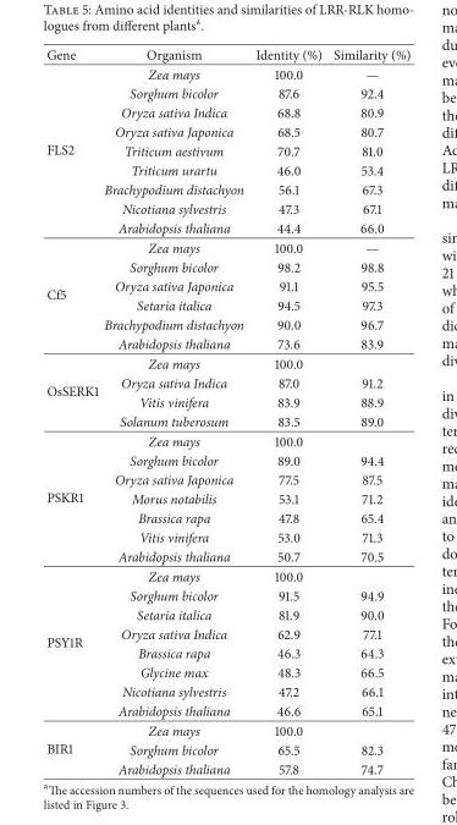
<table><thead><tr><td>Gene</td><td>Organism</td><td>Identity (%)</td><td>Similarity (%)</td></tr></thead><tbody><tr><td rowspan="9">FLS2</td><td>Zea mays</td><td>100.0</td><td>—</td></tr><tr><td>Sorghum bicolor</td><td>87.6</td><td>92.4</td></tr><tr><td>Oryza sativa Indica</td><td>68.8</td><td>80.9</td></tr><tr><td>Oryza sativa Japonica</td><td>68.5</td><td>80.7</td></tr><tr><td>Triticum aestivum</td><td>70.7</td><td>81.0</td></tr><tr><td>Triticum urartu</td><td>46.0</td><td>53.4</td></tr><tr><td>Brachypodium distachyon</td><td>56.1</td><td>67.3</td></tr><tr><td>Nicotiana sylvestris</td><td>47.3</td><td>67.1</td></tr><tr><td>Arabidopsis thaliana</td><td>44.4</td><td>66.0</td></tr><tr><td rowspan="6">Cf5</td><td>Zea mays</td><td>100.0</td><td>—</td></tr><tr><td>Sorghum bicolor</td><td>98.2</td><td>98.8</td></tr><tr><td>Oryza sativa Japonica</td><td>91.1</td><td>95.5</td></tr><tr><td>Setaria italica</td><td>94.5</td><td>97.3</td></tr><tr><td>Brachypodium distachyon</td><td>90.0</td><td>96.7</td></tr><tr><td>Arabidopsis thaliana</td><td>73.6</td><td>83.9</td></tr><tr><td rowspan="4">OsSERK1</td><td>Zea mays</td><td>100.0</td><td></td></tr><tr><td>Oryza sativa Indica</td><td>87.0</td><td>91.2</td></tr><tr><td>Vitis vinifera</td><td>83.9</td><td>88.9</td></tr><tr><td>Solanum tuberosum</td><td>83.5</td><td>89.0</td></tr><tr><td rowspan="7">PSKR1</td><td>Zea mays</td><td>100.0</td><td></td></tr><tr><td>Sorghum bicolor</td><td>89.0</td><td>94.4</td></tr><tr><td>Oryza sativa Japonica</td><td>77.5</td><td>87.5</td></tr><tr><td>Morus notabilis</td><td>53.1</td><td>71.2</td></tr><tr><td>Brassica rapa</td><td>47.8</td><td>65.4</td></tr><tr><td>Vitis vinifera</td><td>53.0</td><td>71.3</td></tr><tr><td>Arabidopsis thaliana</td><td>50.7</td><td>70.5</td></tr><tr><td rowspan="8">PSY1R</td><td>Zea mays</td><td>100.0</td><td></td></tr><tr><td>Sorghum bicolor</td><td>91.5</td><td>94.9</td></tr><tr><td>Setaria italica</td><td>81.9</td><td>90.0</td></tr><tr><td>Oryza sativa Indica</td><td>62.9</td><td>77.1</td></tr><tr><td>Brassica rapa</td><td>46.3</td><td>64.3</td></tr><tr><td>Glycine max</td><td>48.3</td><td>66.5</td></tr><tr><td>Nicotiana sylvestris</td><td>47.2</td><td>66.1</td></tr><tr><td>Arabidopsis thaliana</td><td>46.6</td><td>65.1</td></tr><tr><td rowspan="3">BIR1</td><td>Zea mays</td><td>100.0</td><td></td></tr><tr><td>Sorghum bicolor</td><td>65.5</td><td>82.3</td></tr><tr><td>Arabidopsis thaliana</td><td>57.8</td><td>74.7</td></tr></tbody></table>